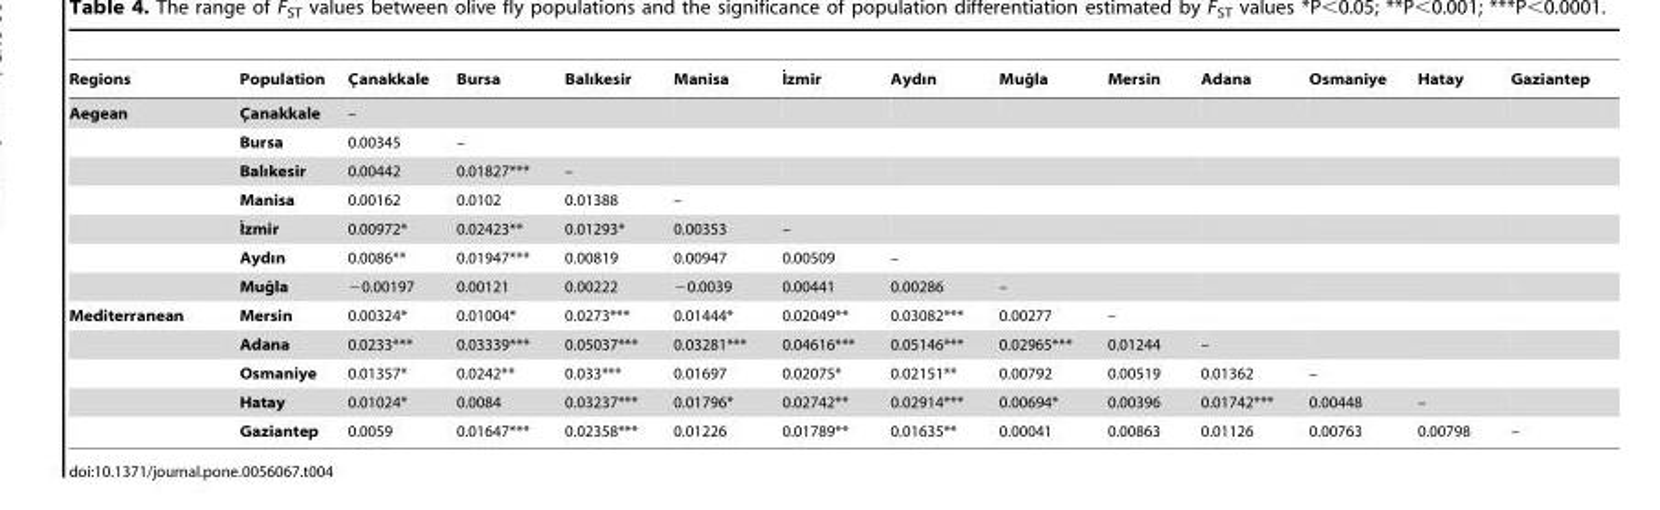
<table><thead><tr><td>Regions</td><td>Population</td><td>C¸ anakkale</td><td>Bursa</td><td>Balıkesir</td><td>Manisa</td><td>I˙zmir</td><td>Aydın</td><td>Mug˘ la</td><td>Mersin</td><td>Adana</td><td>Osmaniye</td><td>Hatay</td><td>Gaziantep</td></tr></thead><tbody><tr><td rowspan="7">Aegean</td><td>C¸ anakkale</td><td>–</td><td></td><td></td><td></td><td></td><td></td><td></td><td></td><td></td><td></td><td></td><td></td></tr><tr><td>Bursa</td><td>0.00345</td><td>–</td><td></td><td></td><td></td><td></td><td></td><td></td><td></td><td></td><td></td><td></td></tr><tr><td>Balıkesir</td><td>0.00442</td><td>0.01827***</td><td>–</td><td></td><td></td><td></td><td></td><td></td><td></td><td></td><td></td><td></td></tr><tr><td>Manisa</td><td>0.00162</td><td>0.0102</td><td>0.01388</td><td>–</td><td></td><td></td><td></td><td></td><td></td><td></td><td></td><td></td></tr><tr><td>I˙zmir</td><td>0.00972*</td><td>0.02423**</td><td>0.01293*</td><td>0.00353</td><td>–</td><td></td><td></td><td></td><td></td><td></td><td></td><td></td></tr><tr><td>Aydın</td><td>0.0086**</td><td>0.01947***</td><td>0.00819</td><td>0.00947</td><td>0.00509</td><td>–</td><td></td><td></td><td></td><td></td><td></td><td></td></tr><tr><td>Mug˘ la</td><td>−0.00197</td><td>0.00121</td><td>0.00222</td><td>−0.0039</td><td>0.00441</td><td>0.00286</td><td>–</td><td></td><td></td><td></td><td></td><td></td></tr><tr><td rowspan="5">Mediterranean</td><td>Mersin</td><td>0.00324*</td><td>0.01004*</td><td>0.0273***</td><td>0.01444*</td><td>0.02049**</td><td>0.03082***</td><td>0.00277</td><td>–</td><td></td><td></td><td></td><td></td></tr><tr><td>Adana</td><td>0.0233***</td><td>0.03339***</td><td>0.05037***</td><td>0.03281***</td><td>0.04616***</td><td>0.05146***</td><td>0.02965***</td><td>0.01244</td><td>–</td><td></td><td></td><td></td></tr><tr><td>Osmaniye</td><td>0.01357*</td><td>0.0242**</td><td>0.033***</td><td>0.01697</td><td>0.02075*</td><td>0.02151**</td><td>0.00792</td><td>0.00519</td><td>0.01362</td><td>–</td><td></td><td></td></tr><tr><td>Hatay</td><td>0.01024*</td><td>0.0084</td><td>0.03237***</td><td>0.01796*</td><td>0.02742**</td><td>0.02914***</td><td>0.00694*</td><td>0.00396</td><td>0.01742***</td><td>0.00448</td><td>–</td><td></td></tr><tr><td>Gaziantep</td><td>0.0059</td><td>0.01647***</td><td>0.02358***</td><td>0.01226</td><td>0.01789**</td><td>0.01635**</td><td>0.00041</td><td>0.00863</td><td>0.01126</td><td>0.00763</td><td>0.00798</td><td>–</td></tr></tbody></table>